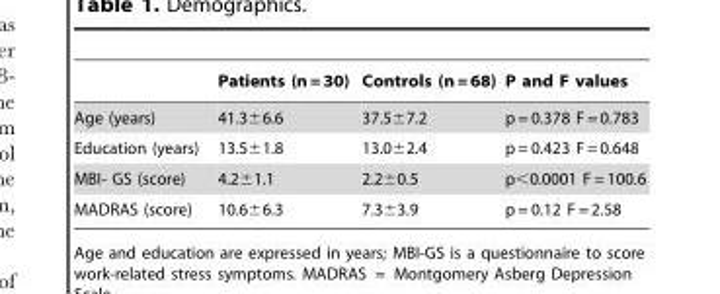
<table><thead><tr><td></td><td>Patients (n = 30)</td><td>Controls (n = 68)</td><td>P and F values</td></tr></thead><tbody><tr><td>Age (years)</td><td>41.3±6.6</td><td>37.5±7.2</td><td>p = 0.378 F = 0.783</td></tr><tr><td>Education (years)</td><td>13.5±1.8</td><td>13.0±2.4</td><td>p = 0.423 F = 0.648</td></tr><tr><td>MBI- GS (score)</td><td>4.2±1.1</td><td>2.2±0.5</td><td>p&lt;0.0001 F = 100.6</td></tr><tr><td>MADRAS (score)</td><td>10.6±6.3</td><td>7.3±3.9</td><td>p = 0.12 F = 2.58</td></tr></tbody></table>